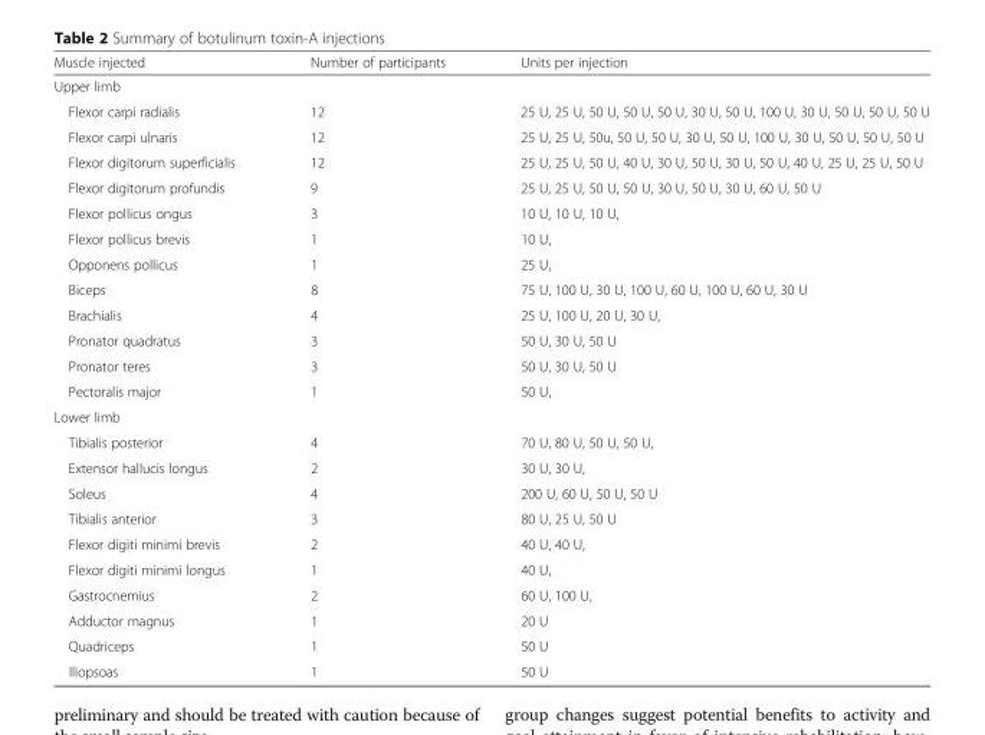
<table><thead><tr><td>Muscle injected</td><td>Number of participants</td><td>Units per injection</td></tr></thead><tbody><tr><td colspan="3">Upper limb</td></tr><tr><td>Flexor carpi radialis</td><td>12</td><td>25 U, 25 U, 50 U, 50 U, 50 U, 30 U, 50 U, 100 U, 30 U, 50 U, 50 U, 50 U</td></tr><tr><td>Flexor carpi ulnaris</td><td>12</td><td>25 U, 25 U, 50u, 50 U, 50 U, 30 U, 50 U, 100 U, 30 U, 50 U, 50 U, 50 U</td></tr><tr><td>Flexor digitorum superficialis</td><td>12</td><td>25 U, 25 U, 50 U, 40 U, 30 U, 50 U, 30 U, 50 U, 40 U, 25 U, 25 U, 50 U</td></tr><tr><td>Flexor digitorum profundis</td><td>9</td><td>25 U, 25 U, 50 U, 50 U, 30 U, 50 U, 30 U, 60 U, 50 U</td></tr><tr><td>Flexor pollicus ongus</td><td>3</td><td>10 U, 10 U, 10 U,</td></tr><tr><td>Flexor pollicus brevis</td><td>1</td><td>10 U,</td></tr><tr><td>Opponens pollicus</td><td>1</td><td>25 U,</td></tr><tr><td>Biceps</td><td>8</td><td>75 U, 100 U, 30 U, 100 U, 60 U, 100 U, 60 U, 30 U</td></tr><tr><td>Brachialis</td><td>4</td><td>25 U, 100 U, 20 U, 30 U,</td></tr><tr><td>Pronator quadratus</td><td>3</td><td>50 U, 30 U, 50 U</td></tr><tr><td>Pronator teres</td><td>3</td><td>50 U, 30 U, 50 U</td></tr><tr><td>Pectoralis major</td><td>1</td><td>50 U,</td></tr><tr><td colspan="3">Lower limb</td></tr><tr><td>Tibialis posterior</td><td>4</td><td>70 U, 80 U, 50 U, 50 U,</td></tr><tr><td>Extensor hallucis longus</td><td>2</td><td>30 U, 30 U,</td></tr><tr><td>Soleus</td><td>4</td><td>200 U, 60 U, 50 U, 50 U</td></tr><tr><td>Tibialis anterior</td><td>3</td><td>80 U, 25 U, 50 U</td></tr><tr><td>Flexor digiti minimi brevis</td><td>2</td><td>40 U, 40 U,</td></tr><tr><td>Flexor digiti minimi longus</td><td>1</td><td>40 U,</td></tr><tr><td>Gastrocnemius</td><td>2</td><td>60 U, 100 U,</td></tr><tr><td>Adductor magnus</td><td>1</td><td>20 U</td></tr><tr><td>Quadriceps</td><td>1</td><td>50 U</td></tr><tr><td>Iliopsoas</td><td>1</td><td>50 U</td></tr></tbody></table>